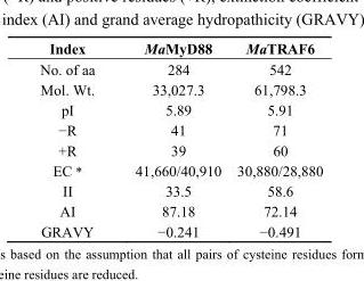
<table><thead><tr><td>Index</td><td>MaMyD88</td><td>MaTRAF6</td></tr></thead><tbody><tr><td>No. of aa</td><td>284</td><td>542</td></tr><tr><td>Mol. Wt.</td><td>33,027.3</td><td>61,798.3</td></tr><tr><td>pI</td><td>5.89</td><td>5.91</td></tr><tr><td>−R</td><td>41</td><td>71</td></tr><tr><td>+R</td><td>39</td><td>60</td></tr><tr><td>EC *</td><td>41,660/40,910</td><td>30,880/28,880</td></tr><tr><td>II</td><td>33.5</td><td>58.6</td></tr><tr><td>AI</td><td>87.18</td><td>72.14</td></tr><tr><td>GRAVY</td><td>−0.241</td><td>−0.491</td></tr></tbody></table>